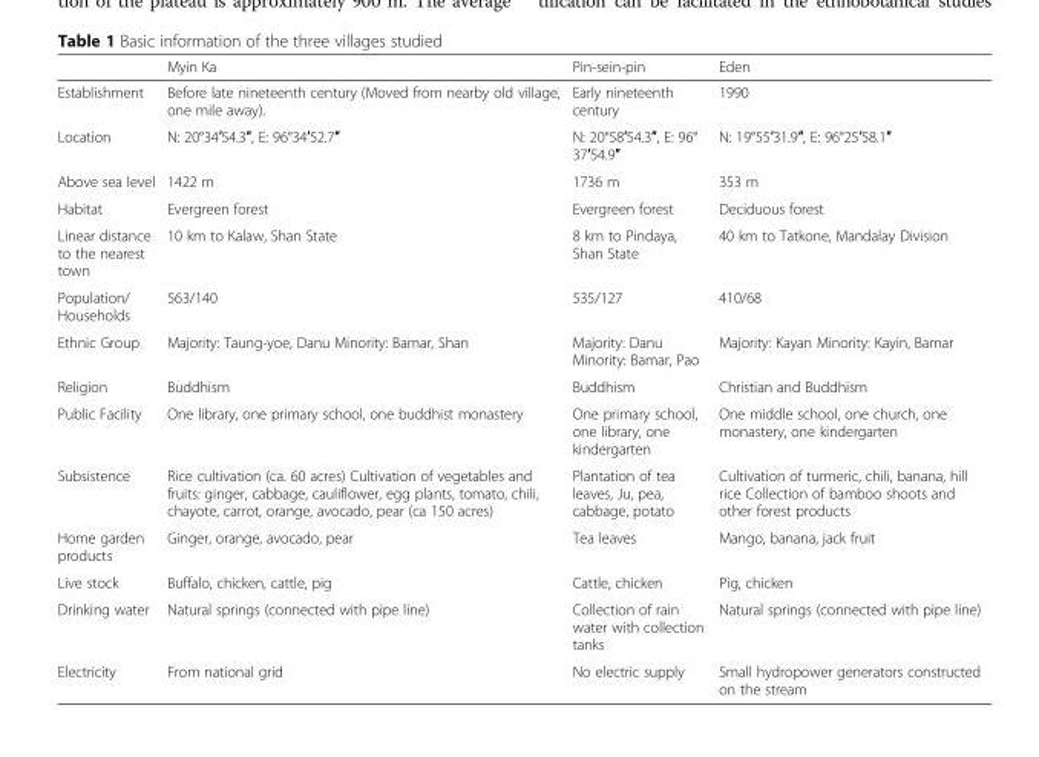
<table><thead><tr><td></td><td>Myin Ka</td><td>Pin-sein-pin</td><td>Eden</td></tr></thead><tbody><tr><td>Establishment</td><td>Before late nineteenth century (Moved from nearby old village, one mile away).</td><td>Early nineteenth century</td><td>1990</td></tr><tr><td>Location</td><td>N: 20°34′54.3″, E: 96°34′52.7″</td><td>N: 20°58′54.3″, E: 96° 37′54.9″</td><td>N: 19°55′31.9″, E: 96°25′58.1″</td></tr><tr><td>Above sea level</td><td>1422 m</td><td>1736 m</td><td>353 m</td></tr><tr><td>Habitat</td><td>Evergreen forest</td><td>Evergreen forest</td><td>Deciduous forest</td></tr><tr><td>Linear distance to the nearest town</td><td>10 km to Kalaw, Shan State</td><td>8 km to Pindaya, Shan State</td><td>40 km to Tatkone, Mandalay Division</td></tr><tr><td>Population/ Households</td><td>563/140</td><td>535/127</td><td>410/68</td></tr><tr><td>Ethnic Group</td><td>Majority: Taung-yoe, Danu Minority: Bamar, Shan</td><td>Majority: Danu Minority: Bamar, Pao</td><td>Majority: Kayan Minority: Kayin, Bamar</td></tr><tr><td>Religion</td><td>Buddhism</td><td>Buddhism</td><td>Christian and Buddhism</td></tr><tr><td>Public Facility</td><td>One library, one primary school, one buddhist monastery</td><td>One primary school, one library, one kindergarten</td><td>One middle school, one church, one monastery, one kindergarten</td></tr><tr><td>Subsistence</td><td>Rice cultivation (ca. 60 acres) Cultivation of vegetables and fruits: ginger, cabbage, cauliflower, egg plants, tomato, chili, chayote, carrot, orange, avocado, pear (ca 150 acres)</td><td>Plantation of tea leaves, Ju, pea, cabbage, potato</td><td>Cultivation of turmeric, chili, banana, hill rice Collection of bamboo shoots and other forest products</td></tr><tr><td>Home garden products</td><td>Ginger, orange, avocado, pear</td><td>Tea leaves</td><td>Mango, banana, jack fruit</td></tr><tr><td>Live stock</td><td>Buffalo, chicken, cattle, pig</td><td>Cattle, chicken</td><td>Pig, chicken</td></tr><tr><td>Drinking water</td><td>Natural springs (connected with pipe line)</td><td>Collection of rain water with collection tanks</td><td>Natural springs (connected with pipe line)</td></tr><tr><td>Electricity</td><td>From national grid</td><td>No electric supply</td><td>Small hydropower generators constructed on the stream</td></tr></tbody></table>